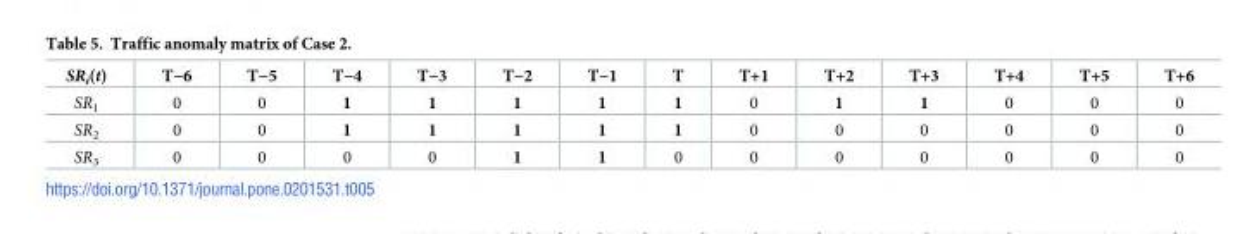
<table><thead><tr><td>SR<sub>i</sub>(t)</td><td>T−6</td><td>T−5</td><td>T−4</td><td>T−3</td><td>T−2</td><td>T−1</td><td>T</td><td>T+1</td><td>T+2</td><td>T+3</td><td>T+4</td><td>T+5</td><td>T+6</td></tr></thead><tbody><tr><td>SR<sub>1</sub></td><td>0</td><td>0</td><td>1</td><td>1</td><td>1</td><td>1</td><td>1</td><td>0</td><td>1</td><td>1</td><td>0</td><td>0</td><td>0</td></tr><tr><td>SR<sub>2</sub></td><td>0</td><td>0</td><td>1</td><td>1</td><td>1</td><td>1</td><td>1</td><td>0</td><td>0</td><td>0</td><td>0</td><td>0</td><td>0</td></tr><tr><td>SR<sub>3</sub></td><td>0</td><td>0</td><td>0</td><td>0</td><td>1</td><td>1</td><td>0</td><td>0</td><td>0</td><td>0</td><td>0</td><td>0</td><td>0</td></tr></tbody></table>